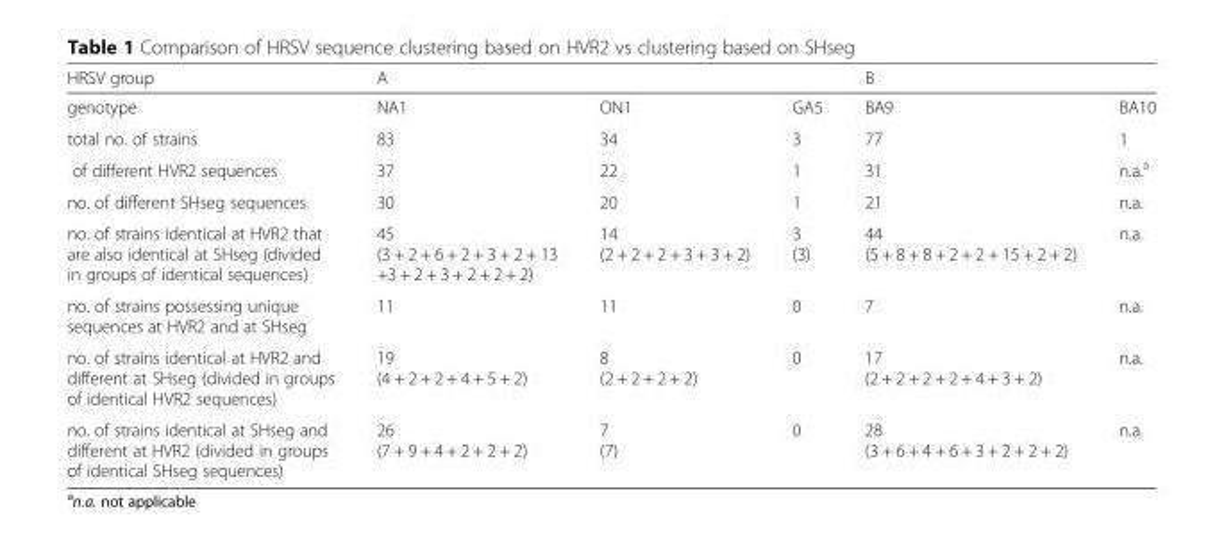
<table><thead><tr><td rowspan="2">HRSV group genotype</td><td colspan="3">A</td><td colspan="2">B</td></tr><tr><td>NA1</td><td>ON1</td><td>GA5</td><td>BA9</td><td>BA10</td></tr></thead><tbody><tr><td>total no. of strains</td><td>83</td><td>34</td><td>3</td><td>77</td><td>1</td></tr><tr><td>of different HVR2 sequences</td><td>37</td><td>22</td><td>1</td><td>31</td><td>n.a.<sup>a</sup></td></tr><tr><td>no. of different SHseg sequences</td><td>30</td><td>20</td><td>1</td><td>21</td><td>n.a.</td></tr><tr><td>no. of strains identical at HVR2 that are also identical at SHseg (divided in groups of identical sequences)</td><td>45 (3 + 2 + 6 + 2 + 3 + 2 + 13 +3 + 2 + 3 + 2 + 2 + 2)</td><td>14 (2 + 2 + 2 + 3 + 3 + 2)</td><td>3 (3)</td><td>44 (5 + 8 + 8 + 2 + 2 + 15 + 2 + 2)</td><td>n.a.</td></tr><tr><td>no. of strains possessing unique sequences at HVR2 and at SHseg</td><td>11</td><td>11</td><td>0</td><td>7</td><td>n.a.</td></tr><tr><td>no. of strains identical at HVR2 and different at SHseg (divided in groups of identical HVR2 sequences)</td><td>19 (4 + 2 + 2 + 4 + 5 + 2)</td><td>8 (2 + 2 + 2 + 2)</td><td>0</td><td>17 (2 + 2 + 2 + 2 + 4 + 3 + 2)</td><td>n.a.</td></tr><tr><td>no. of strains identical at SHseg and different at HVR2 (divided in groups of identical SHseg sequences)</td><td>26 (7 + 9 + 4 + 2 + 2 + 2)</td><td>7 (7)</td><td>0</td><td>28 (3 + 6 + 4 + 6 + 3 + 2 + 2 + 2)</td><td>n.a.</td></tr></tbody></table>